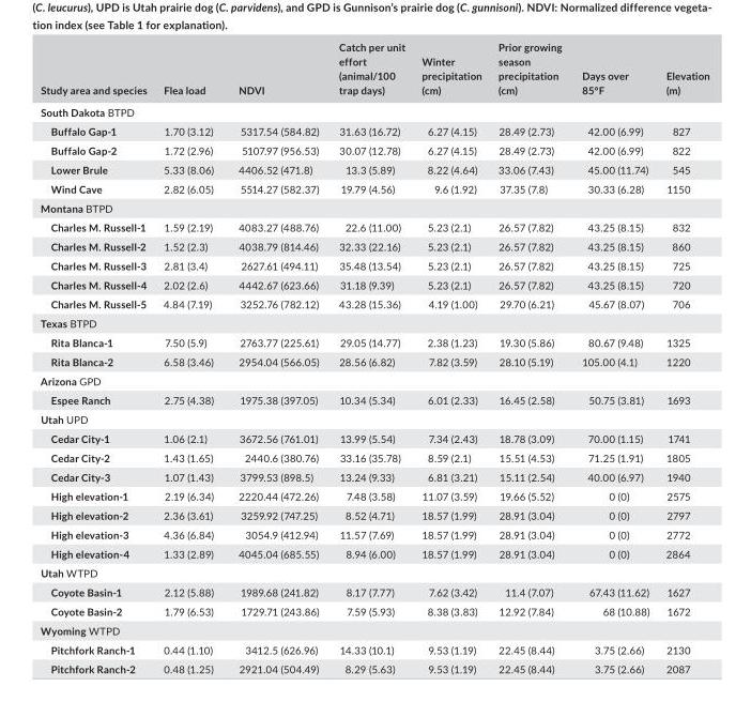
<table><thead><tr><td>Study area and species</td><td>Flea load</td><td>NDVI</td><td>Catch per unit effort (animal/100 trap days)</td><td>Winter precipitation (cm)</td><td>Prior growing season precipitation (cm)</td><td>Days over 85°F</td><td>Elevation (m)</td></tr></thead><tbody><tr><td colspan="8">South Dakota BTPD</td></tr><tr><td>Buffalo Gap- 1</td><td>1.70 (3.12)</td><td>5317.54 (584.82)</td><td>31.63 (16.72)</td><td>6.27 (4.15)</td><td>28.49 (2.73)</td><td>42.00 (6.99)</td><td>827</td></tr><tr><td>Buffalo Gap- 2</td><td>1.72 (2.96)</td><td>5107.97 (956.53)</td><td>30.07 (12.78)</td><td>6.27 (4.15)</td><td>28.49 (2.73)</td><td>42.00 (6.99)</td><td>822</td></tr><tr><td>Lower Brule</td><td>5.33 (8.06)</td><td>4406.52 (471.8)</td><td>13.3 (5.89)</td><td>8.22 (4.64)</td><td>33.06 (7.43)</td><td>45.00 (11.74)</td><td>545</td></tr><tr><td>Wind Cave</td><td>2.82 (6.05)</td><td>5514.27 (582.37)</td><td>19.79 (4.56)</td><td>9.6 (1.92)</td><td>37.35 (7.8)</td><td>30.33 (6.28)</td><td>1150</td></tr><tr><td colspan="8">Montana BTPD</td></tr><tr><td>Charles M. Russell- 1</td><td>1.59 (2.19)</td><td>4083.27 (488.76)</td><td>22.6 (11.00)</td><td>5.23 (2.1)</td><td>26.57 (7.82)</td><td>43.25 (8.15)</td><td>832</td></tr><tr><td>Charles M. Russell- 2</td><td>1.52 (2.3)</td><td>4038.79 (814.46)</td><td>32.33 (22.16)</td><td>5.23 (2.1)</td><td>26.57 (7.82)</td><td>43.25 (8.15)</td><td>860</td></tr><tr><td>Charles M. Russell- 3</td><td>2.81 (3.4)</td><td>2627.61 (494.11)</td><td>35.48 (13.54)</td><td>5.23 (2.1)</td><td>26.57 (7.82)</td><td>43.25 (8.15)</td><td>725</td></tr><tr><td>Charles M. Russell- 4</td><td>2.02 (2.6)</td><td>4442.67 (623.66)</td><td>31.18 (9.39)</td><td>5.23 (2.1)</td><td>26.57 (7.82)</td><td>43.25 (8.15)</td><td>720</td></tr><tr><td>Charles M. Russell- 5</td><td>4.84 (7.19)</td><td>3252.76 (782.12)</td><td>43.28 (15.36)</td><td>4.19 (1.00)</td><td>29.70 (6.21)</td><td>45.67 (8.07)</td><td>706</td></tr><tr><td colspan="8">Texas BTPD</td></tr><tr><td>Rita Blanca- 1</td><td>7.50 (5.9)</td><td>2763.77 (225.61)</td><td>29.05 (14.77)</td><td>2.38 (1.23)</td><td>19.30 (5.86)</td><td>80.67 (9.48)</td><td>1325</td></tr><tr><td>Rita Blanca- 2</td><td>6.58 (3.46)</td><td>2954.04 (566.05)</td><td>28.56 (6.82)</td><td>7.82 (3.59)</td><td>28.10 (5.19)</td><td>105.00 (4.1)</td><td>1220</td></tr><tr><td colspan="8">Arizona GPD</td></tr><tr><td>Espee Ranch</td><td>2.75 (4.38)</td><td>1975.38 (397.05)</td><td>10.34 (5.34)</td><td>6.01 (2.33)</td><td>16.45 (2.58)</td><td>50.75 (3.81)</td><td>1693</td></tr><tr><td colspan="8">Utah UPD</td></tr><tr><td>Cedar City- 1</td><td>1.06 (2.1)</td><td>3672.56 (761.01)</td><td>13.99 (5.54)</td><td>7.34 (2.43)</td><td>18.78 (3.09)</td><td>70.00 (1.15)</td><td>1741</td></tr><tr><td>Cedar City- 2</td><td>1.43 (1.65)</td><td>2440.6 (380.76)</td><td>33.16 (35.78)</td><td>8.59 (2.1)</td><td>15.51 (4.53)</td><td>71.25 (1.91)</td><td>1805</td></tr><tr><td>Cedar City- 3</td><td>1.07 (1.43)</td><td>3799.53 (898.5)</td><td>13.24 (9.33)</td><td>6.81 (3.21)</td><td>15.11 (2.54)</td><td>40.00 (6.97)</td><td>1940</td></tr><tr><td>High elevation- 1</td><td>2.19 (6.34)</td><td>2220.44 (472.26)</td><td>7.48 (3.58)</td><td>11.07 (3.59)</td><td>19.66 (5.52)</td><td>0 (0)</td><td>2575</td></tr><tr><td>High elevation- 2</td><td>2.36 (3.61)</td><td>3259.92 (747.25)</td><td>8.52 (4.71)</td><td>18.57 (1.99)</td><td>28.91 (3.04)</td><td>0 (0)</td><td>2797</td></tr><tr><td>High elevation- 3</td><td>4.36 (6.84)</td><td>3054.9 (412.94)</td><td>11.57 (7.69)</td><td>18.57 (1.99)</td><td>28.91 (3.04)</td><td>0 (0)</td><td>2772</td></tr><tr><td>High elevation- 4</td><td>1.33 (2.89)</td><td>4045.04 (685.55)</td><td>8.94 (6.00)</td><td>18.57 (1.99)</td><td>28.91 (3.04)</td><td>0 (0)</td><td>2864</td></tr><tr><td colspan="8">Utah WTPD</td></tr><tr><td>Coyote Basin- 1</td><td>2.12 (5.88)</td><td>1989.68 (241.82)</td><td>8.17 (7.77)</td><td>7.62 (3.42)</td><td>11.4 (7.07)</td><td>67.43 (11.62)</td><td>1627</td></tr><tr><td>Coyote Basin- 2</td><td>1.79 (6.53)</td><td>1729.71 (243.86)</td><td>7.59 (5.93)</td><td>8.38 (3.83)</td><td>12.92 (7.84)</td><td>68 (10.88)</td><td>1672</td></tr><tr><td colspan="8">Wyoming WTPD</td></tr><tr><td>Pitchfork Ranch- 1</td><td>0.44 (1.10)</td><td>3412.5 (626.96)</td><td>14.33 (10.1)</td><td>9.53 (1.19)</td><td>22.45 (8.44)</td><td>3.75 (2.66)</td><td>2130</td></tr><tr><td>Pitchfork Ranch- 2</td><td>0.48 (1.25)</td><td>2921.04 (504.49)</td><td>8.29 (5.63)</td><td>9.53 (1.19)</td><td>22.45 (8.44)</td><td>3.75 (2.66)</td><td>2087</td></tr></tbody></table>